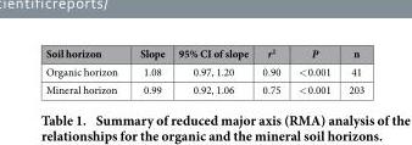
<table><thead><tr><td>Soil horizon</td><td>Slope</td><td>95% CI of slope</td><td>r<sup>2</sup></td><td>P</td><td>n</td></tr></thead><tbody><tr><td>Organic horizon</td><td>1.08</td><td>0.97, 1.20</td><td>0.90</td><td>&lt; 0.001</td><td>41</td></tr><tr><td>Mineral horizon</td><td>0.99</td><td>0.92, 1.06</td><td>0.75</td><td>&lt; 0.001</td><td>203</td></tr></tbody></table>